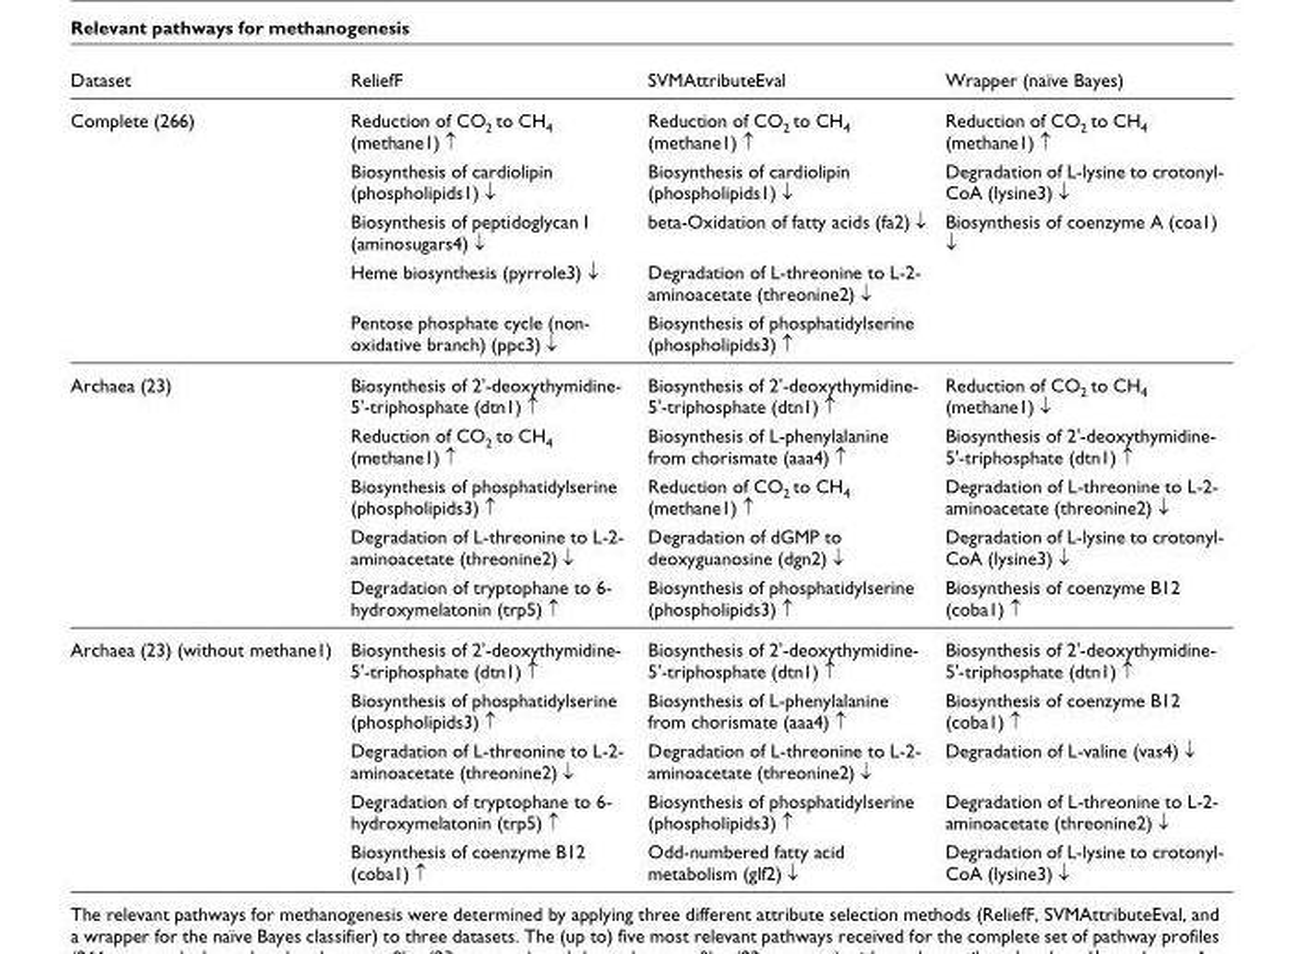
<table><thead><tr><td>Dataset</td><td>ReliefF</td><td>SVMAttributeEval</td><td>Wrapper (naïve Bayes)</td></tr></thead><tbody><tr><td rowspan="5">Complete (266)</td><td>Reduction of CO<sub>2</sub> to CH<sub>4</sub> (methane1) ↑</td><td>Reduction of CO<sub>2</sub> to CH<sub>4</sub> (methane1) ↑</td><td>Reduction of CO<sub>2</sub> to CH<sub>4</sub> (methane1) ↑</td></tr><tr><td>Biosynthesis of cardiolipin (phospholipids1) ↓</td><td>Biosynthesis of cardiolipin (phospholipids1) ↓</td><td>Degradation of L-lysine to crotonyl- CoA (lysine3) ↓</td></tr><tr><td>Biosynthesis of peptidoglycan I (aminosugars4) ↓</td><td>beta-Oxidation of fatty acids (fa2) ↓</td><td>Biosynthesis of coenzyme A (coa1) ↓</td></tr><tr><td>Heme biosynthesis (pyrrole3) ↓</td><td>Degradation of L-threonine to L-2- aminoacetate (threonine2) ↓</td><td></td></tr><tr><td>Pentose phosphate cycle (non- oxidative branch) (ppc3) ↓</td><td>Biosynthesis of phosphatidylserine (phospholipids3) ↑</td><td></td></tr><tr><td rowspan="5">Archaea (23)</td><td>Biosynthesis of 2&#x27;-deoxythymidine- 5&#x27;-triphosphate (dtn1) ↑</td><td>Biosynthesis of 2&#x27;-deoxythymidine- 5&#x27;-triphosphate (dtn1) ↑</td><td>Reduction of CO<sub>2</sub> to CH<sub>4</sub> (methane1) ↓</td></tr><tr><td>Reduction of CO<sub>2</sub> to CH<sub>4</sub> (methane1) ↑</td><td>Biosynthesis of L-phenylalanine from chorismate (aaa4) ↑</td><td>Biosynthesis of 2&#x27;-deoxythymidine- 5&#x27;-triphosphate (dtn1) ↑</td></tr><tr><td>Biosynthesis of phosphatidylserine (phospholipids3) ↑</td><td>Reduction of CO<sub>2</sub> to CH<sub>4</sub> (methane1) ↑</td><td>Degradation of L-threonine to L-2- aminoacetate (threonine2) ↓</td></tr><tr><td>Degradation of L-threonine to L-2- aminoacetate (threonine2) ↓</td><td>Degradation of dGMP to deoxyguanosine (dgn2) ↓</td><td>Degradation of L-lysine to crotonyl- CoA (lysine3) ↓</td></tr><tr><td>Degradation of tryptophane to 6- hydroxymelatonin (trp5) ↑</td><td>Biosynthesis of phosphatidylserine (phospholipids3) ↑</td><td>Biosynthesis of coenzyme B12 (coba1) ↑</td></tr><tr><td rowspan="5">Archaea (23) (without methane1)</td><td>Biosynthesis of 2&#x27;-deoxythymidine- 5&#x27;-triphosphate (dtn1) ↑</td><td>Biosynthesis of 2&#x27;-deoxythymidine- 5&#x27;-triphosphate (dtn1) ↑</td><td>Biosynthesis of 2&#x27;-deoxythymidine- 5&#x27;-triphosphate (dtn1) ↑</td></tr><tr><td>Biosynthesis of phosphatidylserine (phospholipids3) ↑</td><td>Biosynthesis of L-phenylalanine from chorismate (aaa4) ↑</td><td>Biosynthesis of coenzyme B12 (coba1) ↑</td></tr><tr><td>Degradation of L-threonine to L-2- aminoacetate (threonine2) ↓</td><td>Degradation of L-threonine to L-2- aminoacetate (threonine2) ↓</td><td>Degradation of L-valine (vas4) ↓</td></tr><tr><td>Degradation of tryptophane to 6- hydroxymelatonin (trp5) ↑</td><td>Biosynthesis of phosphatidylserine (phospholipids3) ↑</td><td>Degradation of L-threonine to L-2- aminoacetate (threonine2) ↓</td></tr><tr><td>Biosynthesis of coenzyme B12 (coba1) ↑</td><td>Odd-numbered fatty acid metabolism (glf2) ↓</td><td>Degradation of L-lysine to crotonyl- CoA (lysine3) ↓</td></tr></tbody></table>